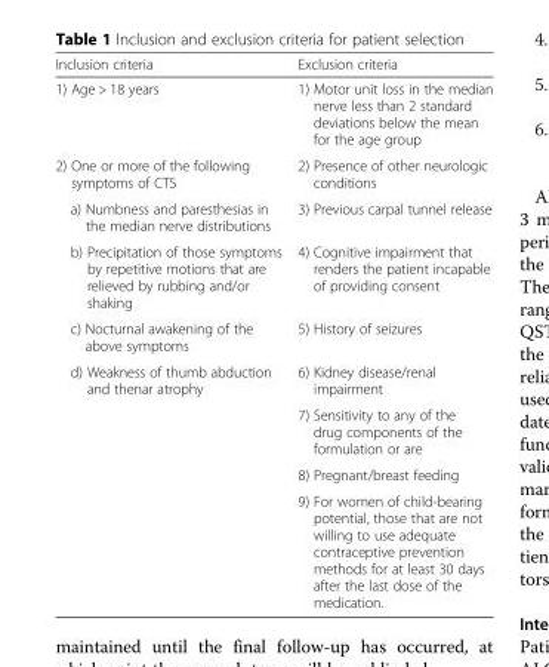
<table><thead><tr><td>Inclusion criteria</td><td>Exclusion criteria</td></tr></thead><tbody><tr><td>1) Age &gt; 18 years</td><td>1) Motor unit loss in the median nerve less than 2 standard deviations below the mean for the age group</td></tr><tr><td>2) One or more of the following symptoms of CTS</td><td>2) Presence of other neurologic conditions</td></tr><tr><td>a) Numbness and paresthesias in the median nerve distributions</td><td>3) Previous carpal tunnel release</td></tr><tr><td>b) Precipitation of those symptoms by repetitive motions that are relieved by rubbing and/or shaking</td><td>4) Cognitive impairment that renders the patient incapable of providing consent</td></tr><tr><td>c) Nocturnal awakening of the above symptoms</td><td>5) History of seizures</td></tr><tr><td rowspan="4">d) Weakness of thumb abduction and thenar atrophy</td><td>6) Kidney disease/renal impairment</td></tr><tr><td>7) Sensitivity to any of the drug components of the formulation or are</td></tr><tr><td>8) Pregnant/breast feeding</td></tr><tr><td>9) For women of child-bearing potential, those that are not willing to use adequate contraceptive prevention methods for at least 30 days after the last dose of the medication.</td></tr></tbody></table>